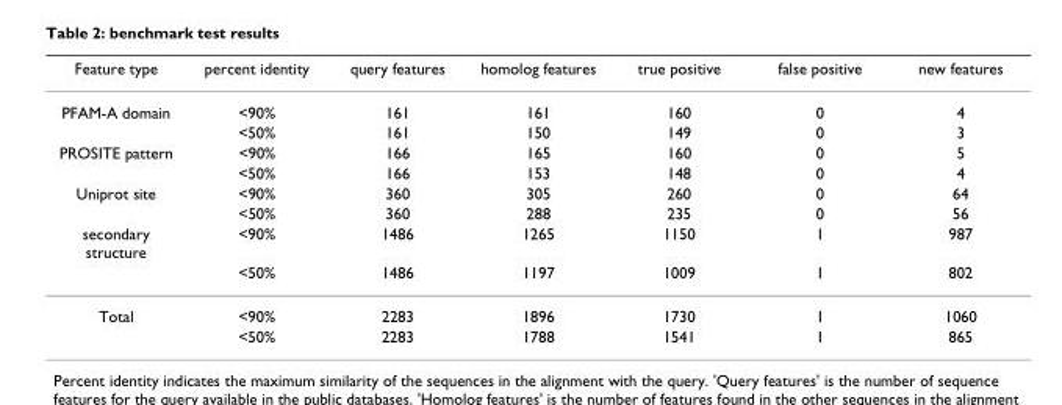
<table><thead><tr><td>Feature type</td><td>percent identity</td><td>query features</td><td>homolog features</td><td>true positive</td><td>false positive</td><td>new features</td></tr></thead><tbody><tr><td rowspan="2">PFAM-A domain</td><td>&lt;90%</td><td>161</td><td>161</td><td>160</td><td>0</td><td>4</td></tr><tr><td>&lt;50%</td><td>161</td><td>150</td><td>149</td><td>0</td><td>3</td></tr><tr><td rowspan="2">PROSITE pattern</td><td>&lt;90%</td><td>166</td><td>165</td><td>160</td><td>0</td><td>5</td></tr><tr><td>&lt;50%</td><td>166</td><td>153</td><td>148</td><td>0</td><td>4</td></tr><tr><td rowspan="2">Uniprot site</td><td>&lt;90%</td><td>360</td><td>305</td><td>260</td><td>0</td><td>64</td></tr><tr><td>&lt;50%</td><td>360</td><td>288</td><td>235</td><td>0</td><td>56</td></tr><tr><td rowspan="2">secondary structure</td><td>&lt;90%</td><td>1486</td><td>1265</td><td>1150</td><td>1</td><td>987</td></tr><tr><td>&lt;50%</td><td>1486</td><td>1197</td><td>1009</td><td>1</td><td>802</td></tr><tr><td rowspan="2">Total</td><td>&lt;90%</td><td>2283</td><td>1896</td><td>1730</td><td>1</td><td>1060</td></tr><tr><td>&lt;50%</td><td>2283</td><td>1788</td><td>1541</td><td>1</td><td>865</td></tr></tbody></table>